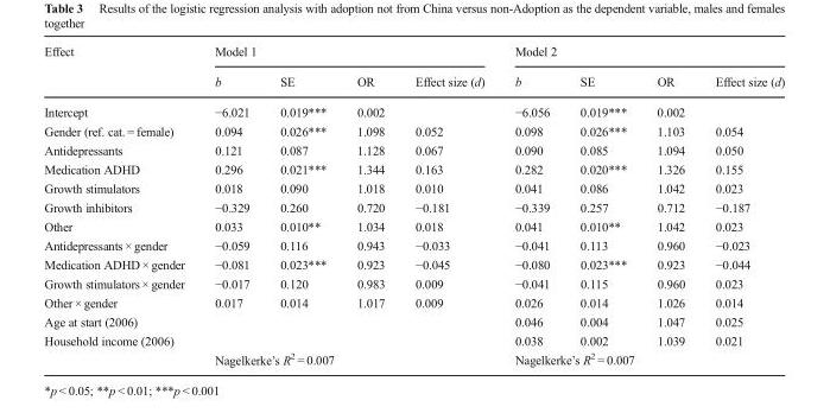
<table><thead><tr><td rowspan="2">Effect</td><td colspan="4">Model 1</td><td colspan="4">Model 2</td></tr><tr><td>b</td><td>SE</td><td>OR</td><td>Effect size (d)</td><td>b</td><td>SE</td><td>OR</td><td>Effect size (d)</td></tr></thead><tbody><tr><td>Intercept</td><td>−6.021</td><td>0.019***</td><td>0.002</td><td></td><td>−6.056</td><td>0.019***</td><td>0.002</td><td></td></tr><tr><td>Gender (ref. cat. = female)</td><td>0.094</td><td>0.026***</td><td>1.098</td><td>0.052</td><td>0.098</td><td>0.026***</td><td>1.103</td><td>0.054</td></tr><tr><td>Antidepressants</td><td>0.121</td><td>0.087</td><td>1.128</td><td>0.067</td><td>0.090</td><td>0.085</td><td>1.094</td><td>0.050</td></tr><tr><td>Medication ADHD</td><td>0.296</td><td>0.021***</td><td>1.344</td><td>0.163</td><td>0.282</td><td>0.020***</td><td>1.326</td><td>0.155</td></tr><tr><td>Growth stimulators</td><td>0.018</td><td>0.090</td><td>1.018</td><td>0.010</td><td>0.041</td><td>0.086</td><td>1.042</td><td>0.023</td></tr><tr><td>Growth inhibitors</td><td>−0.329</td><td>0.260</td><td>0.720</td><td>−0.181</td><td>−0.339</td><td>0.257</td><td>0.712</td><td>−0.187</td></tr><tr><td>Other</td><td>0.033</td><td>0.010**</td><td>1.034</td><td>0.018</td><td>0.041</td><td>0.010**</td><td>1.042</td><td>0.023</td></tr><tr><td>Antidepressants × gender</td><td>−0.059</td><td>0.116</td><td>0.943</td><td>−0.033</td><td>−0.041</td><td>0.113</td><td>0.960</td><td>−0.023</td></tr><tr><td>Medication ADHD × gender</td><td>−0.081</td><td>0.023***</td><td>0.923</td><td>−0.045</td><td>−0.080</td><td>0.023***</td><td>0.923</td><td>−0.044</td></tr><tr><td>Growth stimulators × gender</td><td>−0.017</td><td>0.120</td><td>0.983</td><td>0.009</td><td>−0.041</td><td>0.115</td><td>0.960</td><td>0.023</td></tr><tr><td>Other × gender</td><td>0.017</td><td>0.014</td><td>1.017</td><td>0.009</td><td>0.026</td><td>0.014</td><td>1.026</td><td>0.014</td></tr><tr><td>Age at start (2006)</td><td></td><td></td><td></td><td></td><td>0.046</td><td>0.004</td><td>1.047</td><td>0.025</td></tr><tr><td rowspan="2">Household income (2006)</td><td></td><td></td><td></td><td></td><td>0.038</td><td>0.002</td><td>1.039</td><td>0.021</td></tr><tr><td colspan="4">Nagelkerke’s R<sup>2</sup> = 0.007</td><td colspan="4">Nagelkerke’s R<sup>2</sup> = 0.007</td></tr></tbody></table>